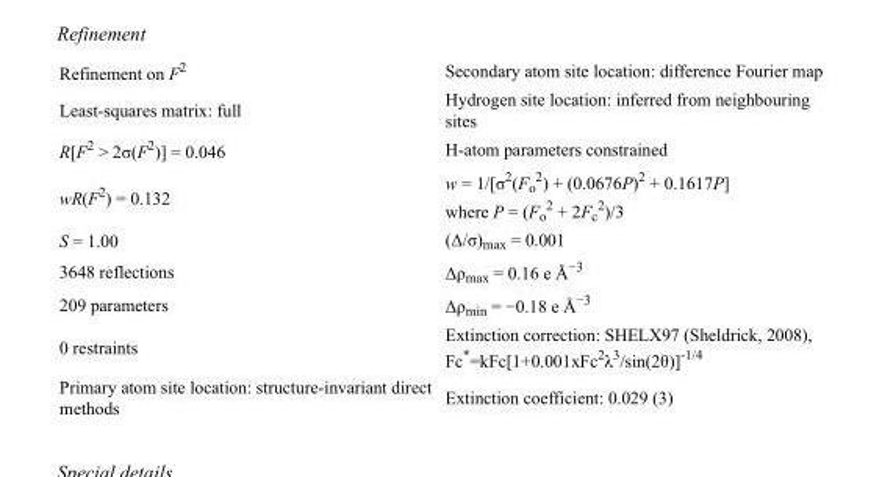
<table><tbody><tr><td>Refinement on F<sup>2</sup></td><td>Secondary atom site location: difference Fourier map</td></tr><tr><td>Least-squares matrix: full</td><td>Hydrogen site location: inferred from neighbouring sites</td></tr><tr><td>R[F<sup>2</sup> &gt; 2σ(F<sup>2</sup>)] = 0.046</td><td>H-atom parameters constrained</td></tr><tr><td>wR(F<sup>2</sup>) = 0.132</td><td>w = 1/[σ<sup>2</sup>(F<sub>o</sub> <sup>2</sup>) + (0.0676P)<sup>2</sup> + 0.1617P] where P = (F<sub>o</sub> <sup>2</sup> + 2F<sub>c</sub> <sup>2</sup>)/3</td></tr><tr><td>S = 1.00</td><td>(Δ/σ)<sub>max</sub> = 0.001</td></tr><tr><td>3648 reflections</td><td>Δρ<sub>max</sub> = 0.16 e Å<sup>−3</sup></td></tr><tr><td>209 parameters</td><td>Δρ<sub>min</sub> = −0.18 e Å<sup>−3</sup></td></tr><tr><td>0 restraints</td><td>Extinction correction: SHELX97 (Sheldrick, 2008), Fc*=kFc[1+0.001xFc<sup>2</sup>λ<sup>3</sup>/sin(2θ)]<sup>-1/4</sup></td></tr><tr><td>Primary atom site location: structure-invariant direct methods</td><td>Extinction coefficient: 0.029 (3)</td></tr></tbody></table>